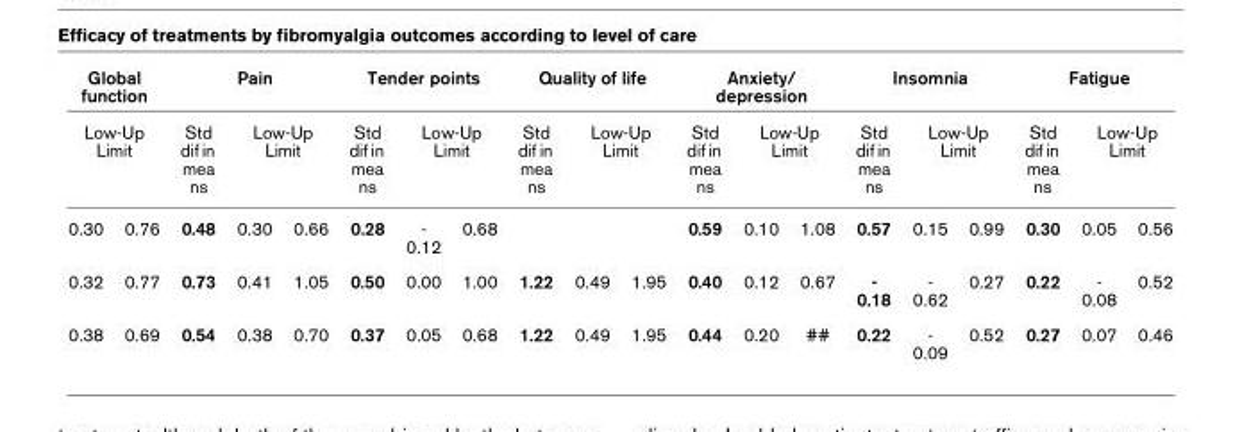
<table><thead><tr><td rowspan="2" colspan="2">Global function Low-Up Limit</td><td colspan="3">Pain</td><td colspan="3">Tender points</td><td colspan="3">Quality of life</td><td colspan="3">Anxiety/ depression</td><td colspan="3">Insomnia</td><td colspan="3">Fatigue</td></tr><tr><td rowspan="2">Std dif in mea ns 0.48</td><td colspan="2">Low-Up Limit</td><td rowspan="2">Std dif in mea ns 0.28</td><td colspan="2">Low-Up Limit</td><td rowspan="2">Std dif in mea ns</td><td colspan="2">Low-Up Limit</td><td rowspan="2">Std dif in mea ns 0.59</td><td colspan="2">Low-Up Limit</td><td rowspan="2">Std dif in mea ns 0.57</td><td colspan="2">Low-Up Limit</td><td rowspan="2">Std dif in mea ns 0.30</td><td colspan="2">Low-Up Limit</td></tr><tr><td>0.30</td><td>0.76</td><td>0.30</td><td>0.66</td><td>- 0.12</td><td>0.68</td><td></td><td></td><td>0.10</td><td>1.08</td><td>0.15</td><td>0.99</td><td>0.05</td><td>0.56</td></tr></thead><tbody><tr><td>0.32</td><td>0.77</td><td>0.73</td><td>0.41</td><td>1.05</td><td>0.50</td><td>0.00</td><td>1.00</td><td>1.22</td><td>0.49</td><td>1.95</td><td>0.40</td><td>0.12</td><td>0.67</td><td>- 0.18</td><td>- 0.62</td><td>0.27</td><td>0.22</td><td>- 0.08</td><td>0.52</td></tr><tr><td>0.38</td><td>0.69</td><td>0.54</td><td>0.38</td><td>0.70</td><td>0.37</td><td>0.05</td><td>0.68</td><td>1.22</td><td>0.49</td><td>1.95</td><td>0.44</td><td>0.20</td><td>##</td><td>0.22</td><td>- 0.09</td><td>0.52</td><td>0.27</td><td>0.07</td><td>0.46</td></tr></tbody></table>